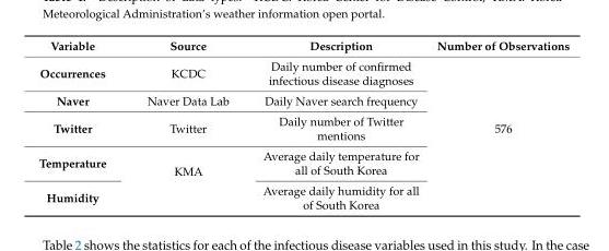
<table><thead><tr><td>Variable</td><td>Source</td><td>Description</td><td>Number of Observations</td></tr></thead><tbody><tr><td>Occurrences</td><td>KCDC</td><td>Daily number of confirmed infectious disease diagnoses</td><td rowspan="5">576</td></tr><tr><td>Naver</td><td>Naver Data Lab</td><td>Daily Naver search frequency</td></tr><tr><td>Twitter</td><td>Twitter</td><td>Daily number of Twitter mentions</td></tr><tr><td>Temperature</td><td rowspan="2">KMA</td><td>Average daily temperature for all of South Korea</td></tr><tr><td>Humidity</td><td>Average daily humidity for all of South Korea</td></tr></tbody></table>